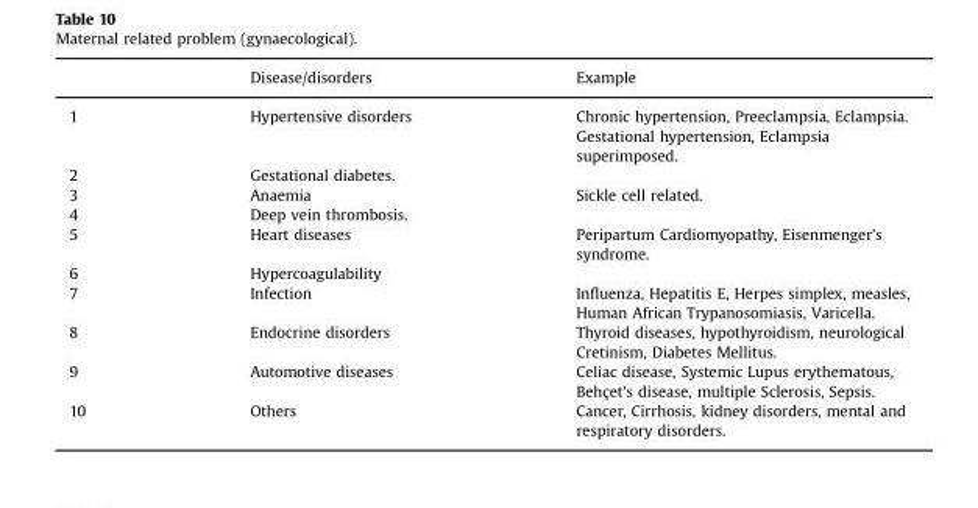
<table><thead><tr><td></td><td>Disease/disorders</td><td>Example</td></tr></thead><tbody><tr><td>1</td><td>Hypertensive disorders</td><td>Chronic hypertension, Preeclampsia, Eclampsia. Gestational hypertension, Eclampsia superimposed.</td></tr><tr><td>2</td><td>Gestational diabetes.</td><td></td></tr><tr><td>3</td><td>Anaemia</td><td>Sickle cell related.</td></tr><tr><td>4</td><td>Deep vein thrombosis.</td><td></td></tr><tr><td>5</td><td>Heart diseases</td><td>Peripartum Cardiomyopathy, Eisenmenger&#x27;s syndrome.</td></tr><tr><td>6</td><td>Hypercoagulability</td><td></td></tr><tr><td>7</td><td>Infection</td><td>Influenza, Hepatitis E, Herpes simplex, measles, Human African Trypanosomiasis, Varicella.</td></tr><tr><td>8</td><td>Endocrine disorders</td><td>Thyroid diseases, hypothyroidism, neurological Cretinism, Diabetes Mellitus.</td></tr><tr><td>9</td><td>Automotive diseases</td><td>Celiac disease, Systemic Lupus erythematous, Behçet&#x27;s disease, multiple Sclerosis, Sepsis.</td></tr><tr><td>10</td><td>Others</td><td>Cancer, Cirrhosis, kidney disorders, mental and respiratory disorders.</td></tr></tbody></table>